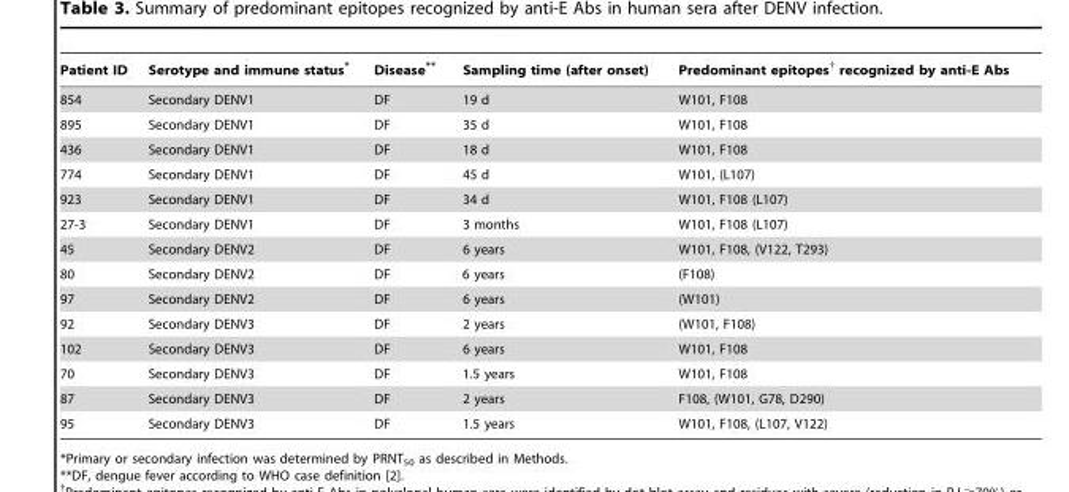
<table><thead><tr><td>Patient ID</td><td>Serotype and immune status*</td><td>Disease**</td><td>Sampling time (after onset)</td><td>Predominant epitopes† recognized by anti-E Abs</td></tr></thead><tbody><tr><td>854</td><td>Secondary DENV1</td><td>DF</td><td>19 d</td><td>W101, F108</td></tr><tr><td>895</td><td>Secondary DENV1</td><td>DF</td><td>35 d</td><td>W101, F108</td></tr><tr><td>436</td><td>Secondary DENV1</td><td>DF</td><td>18 d</td><td>W101, F108</td></tr><tr><td>774</td><td>Secondary DENV1</td><td>DF</td><td>45 d</td><td>W101, (L107)</td></tr><tr><td>923</td><td>Secondary DENV1</td><td>DF</td><td>34 d</td><td>W101, F108 (L107)</td></tr><tr><td>27-3</td><td>Secondary DENV1</td><td>DF</td><td>3 months</td><td>W101, F108 (L107)</td></tr><tr><td>45</td><td>Secondary DENV2</td><td>DF</td><td>6 years</td><td>W101, F108, (V122, T293)</td></tr><tr><td>80</td><td>Secondary DENV2</td><td>DF</td><td>6 years</td><td>(F108)</td></tr><tr><td>97</td><td>Secondary DENV2</td><td>DF</td><td>6 years</td><td>(W101)</td></tr><tr><td>92</td><td>Secondary DENV3</td><td>DF</td><td>2 years</td><td>(W101, F108)</td></tr><tr><td>102</td><td>Secondary DENV3</td><td>DF</td><td>6 years</td><td>W101, F108</td></tr><tr><td>70</td><td>Secondary DENV3</td><td>DF</td><td>1.5 years</td><td>W101, F108</td></tr><tr><td>87</td><td>Secondary DENV3</td><td>DF</td><td>2 years</td><td>F108, (W101, G78, D290)</td></tr><tr><td>95</td><td>Secondary DENV3</td><td>DF</td><td>1.5 years</td><td>W101, F108, (L107, V122)</td></tr></tbody></table>